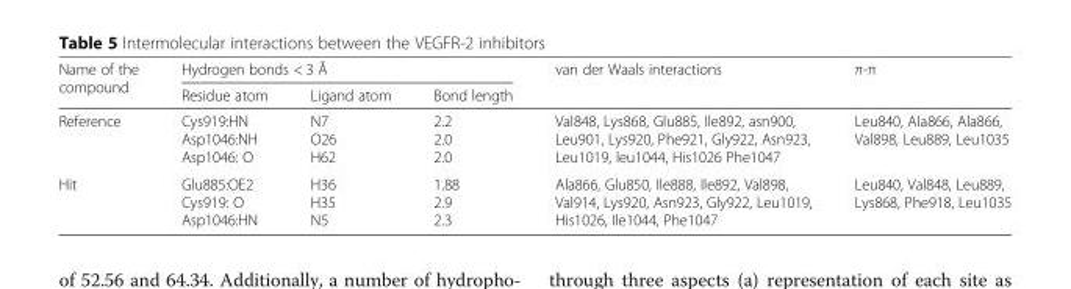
<table><thead><tr><td rowspan="2">Name of the compound</td><td colspan="3">Hydrogen bonds &lt; 3 Å</td><td rowspan="2">van der Waals interactions</td><td rowspan="2">π-π</td></tr><tr><td>Residue atom</td><td>Ligand atom</td><td>Bond length</td></tr></thead><tbody><tr><td>Reference</td><td>Cys919:HN Asp1046:NH Asp1046: O</td><td>N7 O26 H62</td><td>2.2 2.0 2.0</td><td>Val848, Lys868, Glu885, Ile892, asn900, Leu901, Lys920, Phe921, Gly922, Asn923, Leu1019, leu1044, His1026 Phe1047</td><td>Leu840, Ala866, Ala866, Val898, Leu889, Leu1035</td></tr><tr><td>Hit</td><td>Glu885:OE2 Cys919: O Asp1046:HN</td><td>H36 H35 N5</td><td>1.88 2.9 2.3</td><td>Ala866, Glu850, Ile888, Ile892, Val898, Val914, Lys920, Asn923, Gly922, Leu1019, His1026, Ile1044, Phe1047</td><td>Leu840, Val848, Leu889, Lys868, Phe918, Leu1035</td></tr></tbody></table>